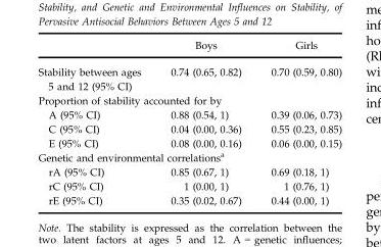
<table><thead><tr><td></td><td>Boys</td><td>Girls</td></tr></thead><tbody><tr><td>Stability between ages 5 and 12 (95% CI)</td><td>0.74 (0.65, 0.82)</td><td>0.70 (0.59, 0.80)</td></tr><tr><td colspan="3">Proportion of stability accounted for by</td></tr><tr><td>A (95% CI)</td><td>0.88 (0.54, 1)</td><td>0.39 (0.06, 0.73)</td></tr><tr><td>C (95% CI)</td><td>0.04 (0.00, 0.36)</td><td>0.55 (0.23, 0.85)</td></tr><tr><td>E (95% CI)</td><td>0.08 (0.00, 0.16)</td><td>0.06 (0.00, 0.15)</td></tr><tr><td colspan="3">Genetic and environmental correlations<sup>a</sup></td></tr><tr><td>rA (95% CI)</td><td>0.85 (0.67, 1)</td><td>0.69 (0.18, 1)</td></tr><tr><td>rC (95% CI)</td><td>1 (0.00, 1)</td><td>1 (0.76, 1)</td></tr><tr><td>rE (95% CI)</td><td>0.35 (0.02, 0.67)</td><td>0.44 (0.00, 1)</td></tr></tbody></table>